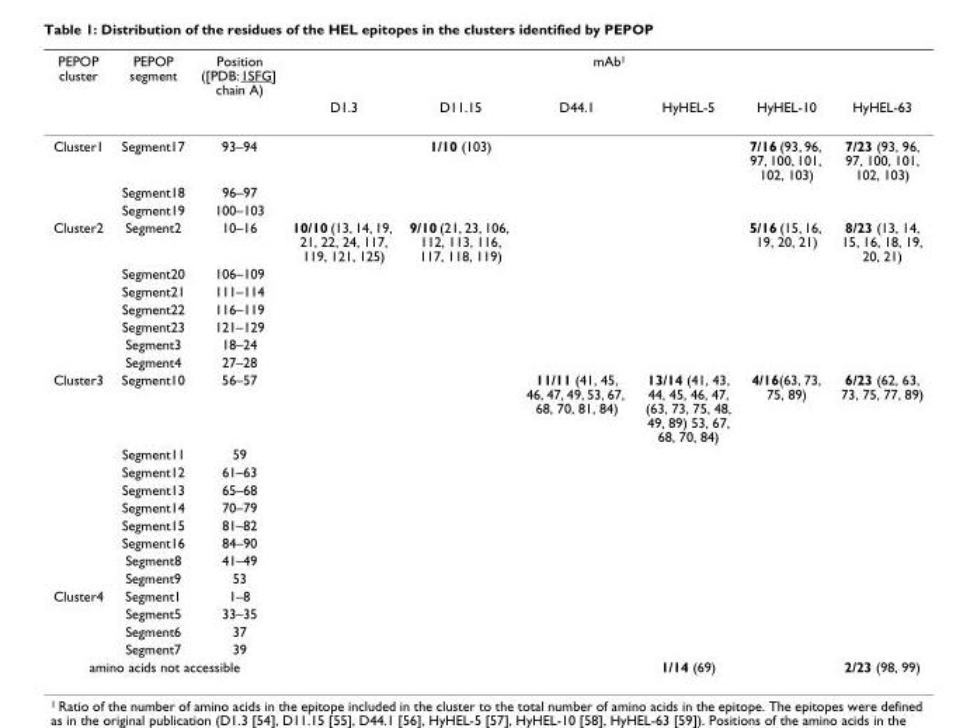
<table><thead><tr><td rowspan="2">PEPOP cluster</td><td rowspan="2">PEPOP segment</td><td rowspan="2">Position ([PDB: 1SFG] chain A)</td><td colspan="6">mAb<sup>1</sup></td></tr><tr><td>D1.3</td><td>D11.15</td><td>D44.1</td><td>HyHEL-5</td><td>HyHEL-10</td><td>HyHEL-63</td></tr></thead><tbody><tr><td rowspan="3">Cluster1</td><td>Segment17</td><td>93–94</td><td></td><td>1/10 (103)</td><td></td><td></td><td>7/16 (93, 96, 97, 100, 101, 102, 103)</td><td>7/23 (93, 96, 97, 100, 101, 102, 103)</td></tr><tr><td>Segment18</td><td>96–97</td><td></td><td></td><td></td><td></td><td></td><td></td></tr><tr><td>Segment19</td><td>100–103</td><td></td><td></td><td></td><td></td><td></td><td></td></tr><tr><td rowspan="7">Cluster2</td><td>Segment2</td><td>10–16</td><td>10/10 (13, 14, 19, 21, 22, 24, 117, 119, 121, 125)</td><td>9/10 (21, 23, 106, 112, 113, 116, 117, 118, 119)</td><td></td><td></td><td>5/16 (15, 16, 19, 20, 21)</td><td>8/23 (13, 14, 15, 16, 18, 19, 20, 21)</td></tr><tr><td>Segment20</td><td>106–109</td><td></td><td></td><td></td><td></td><td></td><td></td></tr><tr><td>Segment21</td><td>111–114</td><td></td><td></td><td></td><td></td><td></td><td></td></tr><tr><td>Segment22</td><td>116–119</td><td></td><td></td><td></td><td></td><td></td><td></td></tr><tr><td>Segment23</td><td>121–129</td><td></td><td></td><td></td><td></td><td></td><td></td></tr><tr><td>Segment3</td><td>18–24</td><td></td><td></td><td></td><td></td><td></td><td></td></tr><tr><td>Segment4</td><td>27–28</td><td></td><td></td><td></td><td></td><td></td><td></td></tr><tr><td rowspan="9">Cluster3</td><td>Segment10</td><td>56–57</td><td></td><td></td><td>11/11 (41, 45, 46, 47, 49, 53, 67, 68, 70, 81, 84)</td><td>13/14 (41, 43, 44, 45, 46, 47, (63, 73, 75, 48, 49, 89) 53, 67, 68, 70, 84)</td><td>4/16(63, 73, 75, 89)</td><td>6/23 (62, 63, 73, 75, 77, 89)</td></tr><tr><td>Segment11</td><td>59</td><td></td><td></td><td></td><td></td><td></td><td></td></tr><tr><td>Segment12</td><td>61–63</td><td></td><td></td><td></td><td></td><td></td><td></td></tr><tr><td>Segment13</td><td>65–68</td><td></td><td></td><td></td><td></td><td></td><td></td></tr><tr><td>Segment14</td><td>70–79</td><td></td><td></td><td></td><td></td><td></td><td></td></tr><tr><td>Segment15</td><td>81–82</td><td></td><td></td><td></td><td></td><td></td><td></td></tr><tr><td>Segment16</td><td>84–90</td><td></td><td></td><td></td><td></td><td></td><td></td></tr><tr><td>Segment8</td><td>41–49</td><td></td><td></td><td></td><td></td><td></td><td></td></tr><tr><td>Segment9</td><td>53</td><td></td><td></td><td></td><td></td><td></td><td></td></tr><tr><td rowspan="4">Cluster4</td><td>Segment1</td><td>1–8</td><td></td><td></td><td></td><td></td><td></td><td></td></tr><tr><td>Segment5</td><td>33–35</td><td></td><td></td><td></td><td></td><td></td><td></td></tr><tr><td>Segment6</td><td>37</td><td></td><td></td><td></td><td></td><td></td><td></td></tr><tr><td>Segment7</td><td>39</td><td></td><td></td><td></td><td></td><td></td><td></td></tr><tr><td colspan="3">amino acids not accessible</td><td></td><td></td><td></td><td>1/14 (69)</td><td></td><td>2/23 (98, 99)</td></tr></tbody></table>